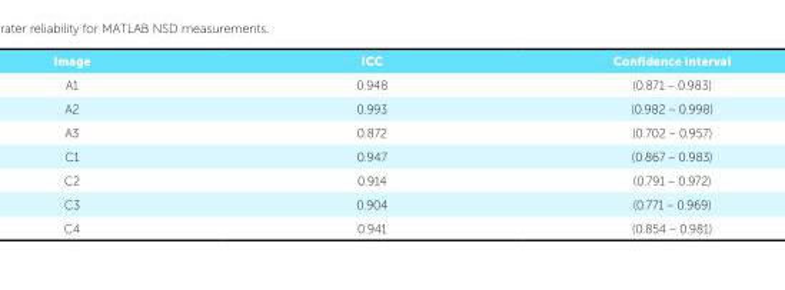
<table><thead><tr><td>Image</td><td>ICC</td><td>Confidence interval</td></tr></thead><tbody><tr><td>A1</td><td>0.948</td><td>(0.871 – 0.983)</td></tr><tr><td>A2</td><td>0.993</td><td>(0.982 – 0.998)</td></tr><tr><td>A3</td><td>0.872</td><td>(0.702 – 0.957)</td></tr><tr><td>C1</td><td>0.947</td><td>(0.867 – 0.983)</td></tr><tr><td>C2</td><td>0.914</td><td>(0.791 – 0.972)</td></tr><tr><td>C3</td><td>0.904</td><td>(0.771 – 0.969)</td></tr><tr><td>C4</td><td>0.941</td><td>(0.854 – 0.981)</td></tr></tbody></table>